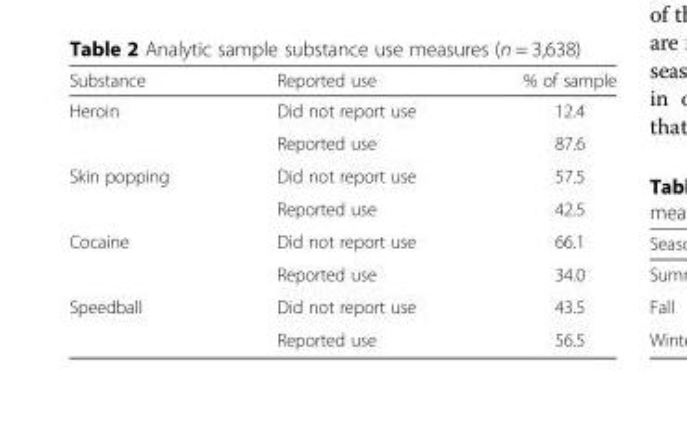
<table><thead><tr><td>Substance</td><td>Reported use</td><td>% of sample</td></tr></thead><tbody><tr><td rowspan="2">Heroin</td><td>Did not report use</td><td>12.4</td></tr><tr><td>Reported use</td><td>87.6</td></tr><tr><td rowspan="2">Skin popping</td><td>Did not report use</td><td>57.5</td></tr><tr><td>Reported use</td><td>42.5</td></tr><tr><td rowspan="2">Cocaine</td><td>Did not report use</td><td>66.1</td></tr><tr><td>Reported use</td><td>34.0</td></tr><tr><td rowspan="2">Speedball</td><td>Did not report use</td><td>43.5</td></tr><tr><td>Reported use</td><td>56.5</td></tr></tbody></table>